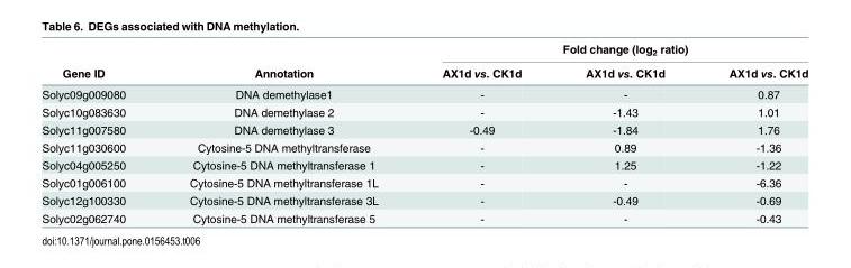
<table><thead><tr><td rowspan="2">Gene ID</td><td rowspan="2">Annotation</td><td colspan="3">Fold change (log<sub>2</sub> ratio)</td></tr><tr><td>AX1d vs. CK1d</td><td>AX1d vs. CK1d</td><td>AX1d vs. CK1d</td></tr></thead><tbody><tr><td>Solyc09g009080</td><td>DNA demethylase1</td><td>-</td><td>-</td><td>0.87</td></tr><tr><td>Solyc10g083630</td><td>DNA demethylase 2</td><td>-</td><td>-1.43</td><td>1.01</td></tr><tr><td>Solyc11g007580</td><td>DNA demethylase 3</td><td>-0.49</td><td>-1.84</td><td>1.76</td></tr><tr><td>Solyc11g030600</td><td>Cytosine-5 DNA methyltransferase</td><td>-</td><td>0.89</td><td>-1.36</td></tr><tr><td>Solyc04g005250</td><td>Cytosine-5 DNA methyltransferase 1</td><td>-</td><td>1.25</td><td>-1.22</td></tr><tr><td>Solyc01g006100</td><td>Cytosine-5 DNA methyltransferase 1L</td><td>-</td><td>-</td><td>-6.36</td></tr><tr><td>Solyc12g100330</td><td>Cytosine-5 DNA methyltransferase 3L</td><td>-</td><td>-0.49</td><td>-0.69</td></tr><tr><td>Solyc02g062740</td><td>Cytosine-5 DNA methyltransferase 5</td><td>-</td><td>-</td><td>-0.43</td></tr></tbody></table>